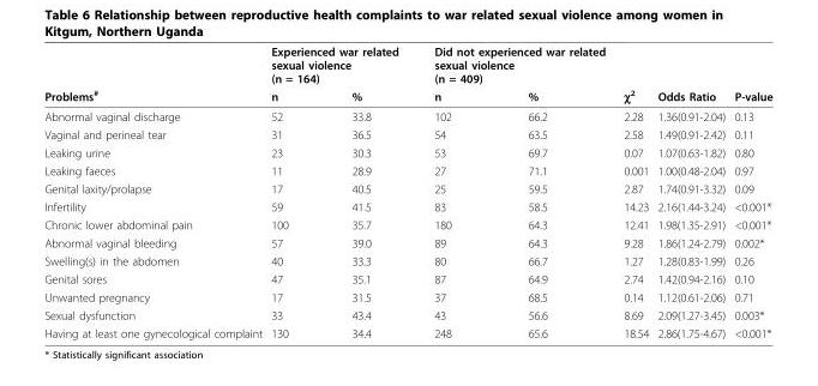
<table><thead><tr><td rowspan="2">Problems<sup>#</sup></td><td colspan="2">Experienced war related sexual violence (n = 164)</td><td colspan="2">Did not experienced war related sexual violence (n = 409)</td><td rowspan="2">χ<sup>2</sup></td><td rowspan="2">Odds Ratio</td><td rowspan="2">P-value</td></tr><tr><td>n</td><td>%</td><td>n</td><td>%</td></tr></thead><tbody><tr><td>Abnormal vaginal discharge</td><td>52</td><td>33.8</td><td>102</td><td>66.2</td><td>2.28</td><td>1.36(0.91-2.04)</td><td>0.13</td></tr><tr><td>Vaginal and perineal tear</td><td>31</td><td>36.5</td><td>54</td><td>63.5</td><td>2.58</td><td>1.49(0.91-2.42)</td><td>0.11</td></tr><tr><td>Leaking urine</td><td>23</td><td>30.3</td><td>53</td><td>69.7</td><td>0.07</td><td>1.07(0.63-1.82)</td><td>0.80</td></tr><tr><td>Leaking faeces</td><td>11</td><td>28.9</td><td>27</td><td>71.1</td><td>0.001</td><td>1.00(0.48-2.04)</td><td>0.97</td></tr><tr><td>Genital laxity/prolapse</td><td>17</td><td>40.5</td><td>25</td><td>59.5</td><td>2.87</td><td>1.74(0.91-3.32)</td><td>0.09</td></tr><tr><td>Infertility</td><td>59</td><td>41.5</td><td>83</td><td>58.5</td><td>14.23</td><td>2.16(1.44-3.24)</td><td>&lt;0.001*</td></tr><tr><td>Chronic lower abdominal pain</td><td>100</td><td>35.7</td><td>180</td><td>64.3</td><td>12.41</td><td>1.98(1.35-2.91)</td><td>&lt;0.001*</td></tr><tr><td>Abnormal vaginal bleeding</td><td>57</td><td>39.0</td><td>89</td><td>64.3</td><td>9.28</td><td>1.86(1.24-2.79)</td><td>0.002*</td></tr><tr><td>Swelling(s) in the abdomen</td><td>40</td><td>33.3</td><td>80</td><td>66.7</td><td>1.27</td><td>1.28(0.83-1.99)</td><td>0.26</td></tr><tr><td>Genital sores</td><td>47</td><td>35.1</td><td>87</td><td>64.9</td><td>2.74</td><td>1.42(0.94-2.16)</td><td>0.10</td></tr><tr><td>Unwanted pregnancy</td><td>17</td><td>31.5</td><td>37</td><td>68.5</td><td>0.14</td><td>1.12(0.61-2.06)</td><td>0.71</td></tr><tr><td>Sexual dysfunction</td><td>33</td><td>43.4</td><td>43</td><td>56.6</td><td>8.69</td><td>2.09(1.27-3.45)</td><td>0.003*</td></tr><tr><td>Having at least one gynecological complaint</td><td>130</td><td>34.4</td><td>248</td><td>65.6</td><td>18.54</td><td>2.86(1.75-4.67)</td><td>&lt;0.001*</td></tr></tbody></table>